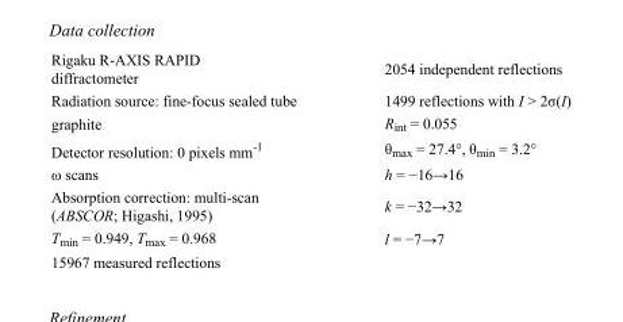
<table><tbody><tr><td>Rigaku R-AXIS RAPID diffractometer</td><td>2054 independent reflections</td></tr><tr><td>Radiation source: fine-focus sealed tube</td><td>1499 reflections with I &gt; 2σ(I)</td></tr><tr><td>graphite</td><td>R<sub>int</sub> = 0.055</td></tr><tr><td>Detector resolution: 0 pixels mm<sup>-1</sup></td><td>θ<sub>max</sub> = 27.4°, θ<sub>min</sub> = 3.2°</td></tr><tr><td>ω scans</td><td>h = −16→16</td></tr><tr><td>Absorption correction: multi-scan (ABSCOR; Higashi, 1995)</td><td>k = −32→32</td></tr><tr><td>T<sub>min</sub> = 0.949, T<sub>max</sub> = 0.968</td><td>l = −7→7</td></tr><tr><td>15967 measured reflections</td><td></td></tr></tbody></table>